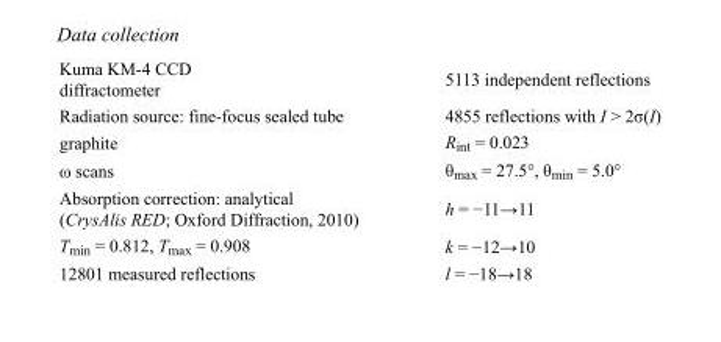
<table><tbody><tr><td>Kuma KM-4 CCD diffractometer</td><td>5113 independent reflections</td></tr><tr><td>Radiation source: fine-focus sealed tube</td><td>4855 reflections with I &gt; 2σ(I)</td></tr><tr><td>graphite</td><td>R<sub>int</sub> = 0.023</td></tr><tr><td>ω scans</td><td>θ<sub>max</sub> = 27.5°, θ<sub>min</sub> = 5.0°</td></tr><tr><td>Absorption correction: analytical (CrysAlis RED; Oxford Diffraction, 2010)</td><td>h = −11→11</td></tr><tr><td>T<sub>min</sub> = 0.812, T<sub>max</sub> = 0.908</td><td>k = −12→10</td></tr><tr><td>12801 measured reflections</td><td>l = −18→18</td></tr></tbody></table>